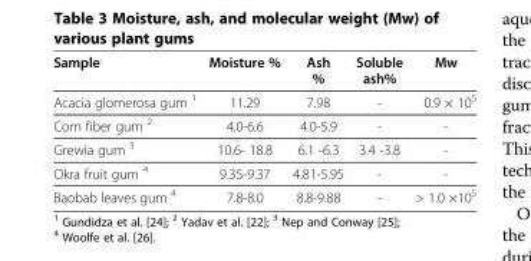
<table><thead><tr><td>Sample</td><td>Moisture %</td><td>Ash %</td><td>Soluble ash%</td><td>Mw</td></tr></thead><tbody><tr><td>Acacia glomerosa gum <sup>1</sup></td><td>11.29</td><td>7.98</td><td>-</td><td>0.9 × 10<sup>5</sup></td></tr><tr><td>Corn fiber gum <sup>2</sup></td><td>4.0-6.6</td><td>4.0-5.9</td><td>-</td><td>-</td></tr><tr><td>Grewia gum <sup>3</sup></td><td>10.6- 18.8</td><td>6.1 -6.3</td><td>3.4 -3.8</td><td>-</td></tr><tr><td>Okra fruit gum <sup>4</sup></td><td>9.35-9.37</td><td>4.81-5.95</td><td>-</td><td>-</td></tr><tr><td>Baobab leaves gum <sup>4</sup></td><td>7.8-8.0</td><td>8.8-9.88</td><td>-</td><td>&gt; 1.0 ×10<sup>5</sup></td></tr></tbody></table>